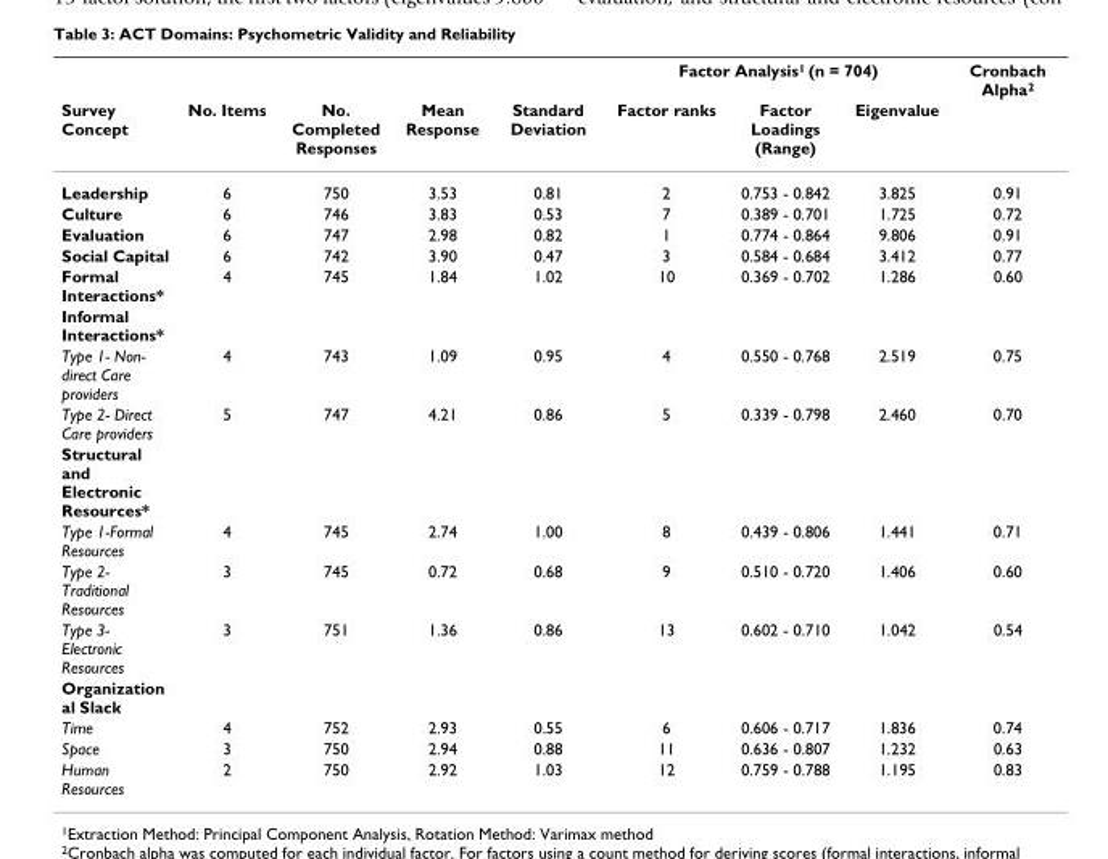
<table><thead><tr><td rowspan="2">Survey Concept</td><td rowspan="2">No. Items</td><td rowspan="2">No. Completed Responses</td><td rowspan="2">Mean Response</td><td rowspan="2">Standard Deviation</td><td colspan="3">Factor Analysis<sup>1</sup> (n = 704)</td><td rowspan="2">Cronbach Alpha<sup>2</sup></td></tr><tr><td>Factor ranks</td><td>Factor Loadings (Range)</td><td>Eigenvalue</td></tr></thead><tbody><tr><td>Leadership</td><td>6</td><td>750</td><td>3.53</td><td>0.81</td><td>2</td><td>0.753 - 0.842</td><td>3.825</td><td>0.91</td></tr><tr><td>Culture</td><td>6</td><td>746</td><td>3.83</td><td>0.53</td><td>7</td><td>0.389 - 0.701</td><td>1.725</td><td>0.72</td></tr><tr><td>Evaluation</td><td>6</td><td>747</td><td>2.98</td><td>0.82</td><td>1</td><td>0.774 - 0.864</td><td>9.806</td><td>0.91</td></tr><tr><td>Social Capital</td><td>6</td><td>742</td><td>3.90</td><td>0.47</td><td>3</td><td>0.584 - 0.684</td><td>3.412</td><td>0.77</td></tr><tr><td>Formal Interactions*</td><td>4</td><td>745</td><td>1.84</td><td>1.02</td><td>10</td><td>0.369 - 0.702</td><td>1.286</td><td>0.60</td></tr><tr><td colspan="9">Informal Interactions*</td></tr><tr><td>Type 1- Non- direct Care providers</td><td>4</td><td>743</td><td>1.09</td><td>0.95</td><td>4</td><td>0.550 - 0.768</td><td>2.519</td><td>0.75</td></tr><tr><td>Type 2- Direct Care providers</td><td>5</td><td>747</td><td>4.21</td><td>0.86</td><td>5</td><td>0.339 - 0.798</td><td>2.460</td><td>0.70</td></tr><tr><td colspan="9">Structural and Electronic Resources*</td></tr><tr><td>Type 1-Formal Resources</td><td>4</td><td>745</td><td>2.74</td><td>1.00</td><td>8</td><td>0.439 - 0.806</td><td>1.441</td><td>0.71</td></tr><tr><td>Type 2- Traditional Resources</td><td>3</td><td>745</td><td>0.72</td><td>0.68</td><td>9</td><td>0.510 - 0.720</td><td>1.406</td><td>0.60</td></tr><tr><td>Type 3- Electronic Resources</td><td>3</td><td>751</td><td>1.36</td><td>0.86</td><td>13</td><td>0.602 - 0.710</td><td>1.042</td><td>0.54</td></tr><tr><td colspan="9">Organization al Slack</td></tr><tr><td>Time</td><td>4</td><td>752</td><td>2.93</td><td>0.55</td><td>6</td><td>0.606 - 0.717</td><td>1.836</td><td>0.74</td></tr><tr><td>Space</td><td>3</td><td>750</td><td>2.94</td><td>0.88</td><td>11</td><td>0.636 - 0.807</td><td>1.232</td><td>0.63</td></tr><tr><td>Human Resources</td><td>2</td><td>750</td><td>2.92</td><td>1.03</td><td>12</td><td>0.759 - 0.788</td><td>1.195</td><td>0.83</td></tr></tbody></table>